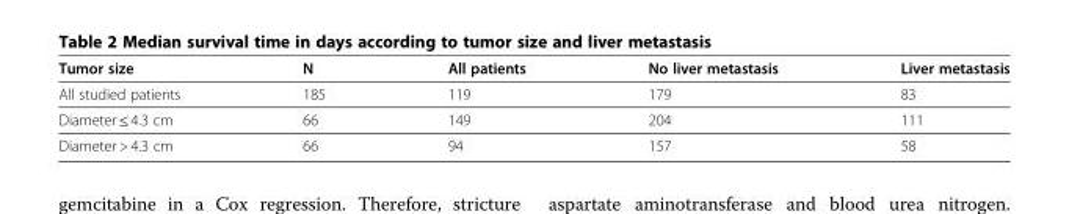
<table><thead><tr><td>Tumor size</td><td>N</td><td>All patients</td><td>No liver metastasis</td><td>Liver metastasis</td></tr></thead><tbody><tr><td>All studied patients</td><td>185</td><td>119</td><td>179</td><td>83</td></tr><tr><td>Diameter ≤ 4.3 cm</td><td>66</td><td>149</td><td>204</td><td>111</td></tr><tr><td>Diameter &gt; 4.3 cm</td><td>66</td><td>94</td><td>157</td><td>58</td></tr></tbody></table>